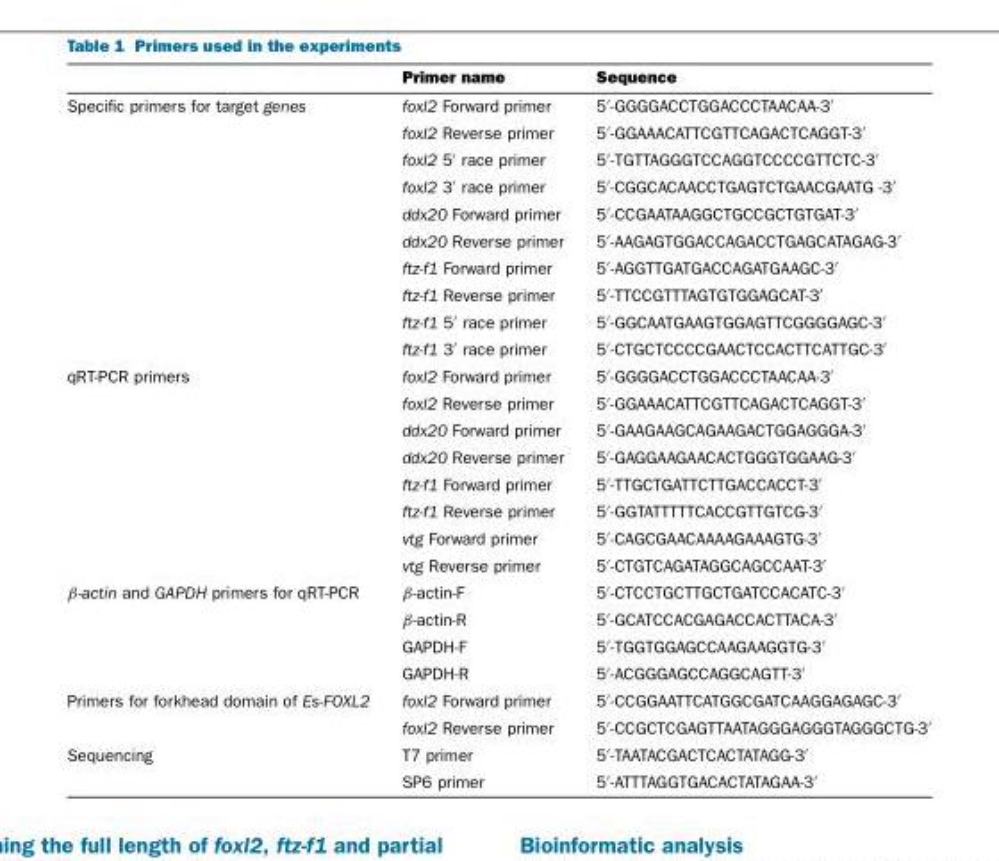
<table><thead><tr><td></td><td>Primer name</td><td>Sequence</td></tr></thead><tbody><tr><td rowspan="10">Specific primers for target genes</td><td>foxl2 Forward primer</td><td>5′-GGGGACCTGGACCCTAACAA-3′</td></tr><tr><td>foxl2 Reverse primer</td><td>5′-GGAAACATTCGTTCAGACTCAGGT-3′</td></tr><tr><td>foxl2 5′ race primer</td><td>5′-TGTTAGGGTCCAGGTCCCCGTTCTC-3′</td></tr><tr><td>foxl2 3′ race primer</td><td>5′-CGGCACAACCTGAGTCTGAACGAATG -3′</td></tr><tr><td>ddx20 Forward primer</td><td>5′-CCGAATAAGGCTGCCGCTGTGAT-3′</td></tr><tr><td>ddx20 Reverse primer</td><td>5′-AAGAGTGGACCAGACCTGAGCATAGAG-3′</td></tr><tr><td>ftz-f1 Forward primer</td><td>5′-AGGTTGATGACCAGATGAAGC-3′</td></tr><tr><td>ftz-f1 Reverse primer</td><td>5′-TTCCGTTTAGTGTGGAGCAT-3′</td></tr><tr><td>ftz-f1 5′ race primer</td><td>5′-GGCAATGAAGTGGAGTTCGGGGAGC-3′</td></tr><tr><td>ftz-f1 3′ race primer</td><td>5′-CTGCTCCCCGAACTCCACTTCATTGC-3′</td></tr><tr><td rowspan="8">qRT-PCR primers</td><td>foxl2 Forward primer</td><td>5′-GGGGACCTGGACCCTAACAA-3′</td></tr><tr><td>foxl2 Reverse primer</td><td>5′-GGAAACATTCGTTCAGACTCAGGT-3′</td></tr><tr><td>ddx20 Forward primer</td><td>5′-GAAGAAGCAGAAGACTGGAGGGA-3′</td></tr><tr><td>ddx20 Reverse primer</td><td>5′-GAGGAAGAACACTGGGTGGAAG-3′</td></tr><tr><td>ftz-f1 Forward primer</td><td>5′-TTGCTGATTCTTGACCACCT-3′</td></tr><tr><td>ftz-f1 Reverse primer</td><td>5′-GGTATTTTTCACCGTTGTCG-3′</td></tr><tr><td>vtg Forward primer</td><td>5′-CAGCGAACAAAAGAAAGTG-3′</td></tr><tr><td>vtg Reverse primer</td><td>5′-CTGTCAGATAGGCAGCCAAT-3′</td></tr><tr><td rowspan="4">β-actin and GAPDH primers for qRT-PCR</td><td>β-actin-F</td><td>5′-CTCCTGCTTGCTGATCCACATC-3′</td></tr><tr><td>β-actin-R</td><td>5′-GCATCCACGAGACCACTTACA-3′</td></tr><tr><td>GAPDH-F</td><td>5′-TGGTGGAGCCAAGAAGGTG-3′</td></tr><tr><td>GAPDH-R</td><td>5′-ACGGGAGCCAGGCAGTT-3′</td></tr><tr><td rowspan="2">Primers for forkhead domain of Es-FOXL2</td><td>foxl2 Forward primer</td><td>5′-CCGGAATTCATGGCGATCAAGGAGAGC-3′</td></tr><tr><td>foxl2 Reverse primer</td><td>5′-CCGCTCGAGTTAATAGGGAGGGTAGGGCTG-3′</td></tr><tr><td rowspan="2">Sequencing</td><td>T7 primer</td><td>5′-TAATACGACTCACTATAGG-3′</td></tr><tr><td>SP6 primer</td><td>5′-ATTTAGGTGACACTATAGAA-3′</td></tr></tbody></table>